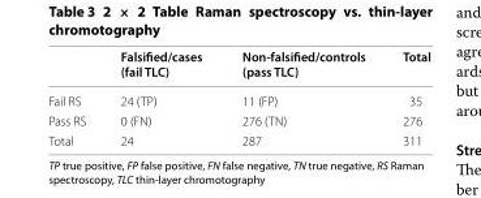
<table><thead><tr><td></td><td>Falsified/cases (fail TLC)</td><td>Non‑falsified/controls (pass TLC)</td><td>Total</td></tr></thead><tbody><tr><td>Fail RS</td><td>24 (TP)</td><td>11 (FP)</td><td>35</td></tr><tr><td>Pass RS</td><td>0 (FN)</td><td>276 (TN)</td><td>276</td></tr><tr><td>Total</td><td>24</td><td>287</td><td>311</td></tr></tbody></table>